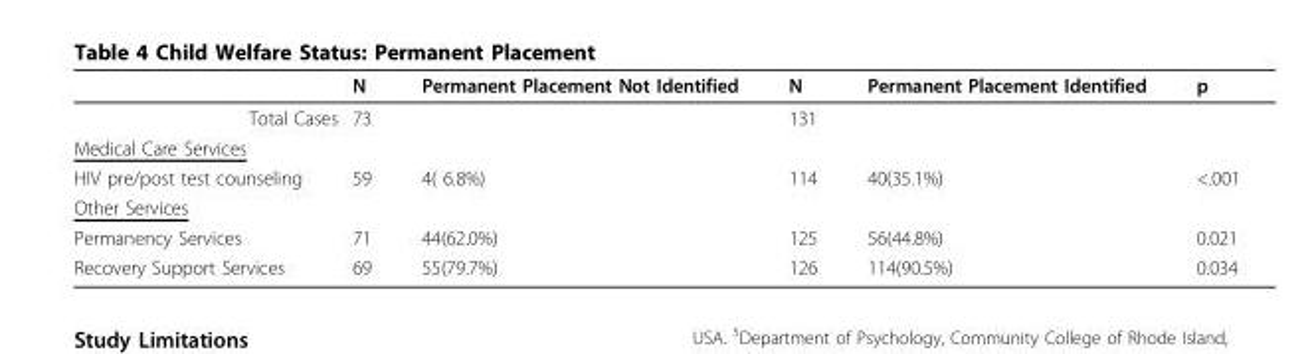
<table><thead><tr><td></td><td>N</td><td>Permanent Placement Not Identified</td><td>N</td><td>Permanent Placement Identified</td><td>p</td></tr></thead><tbody><tr><td>Total Cases</td><td>73</td><td></td><td>131</td><td></td><td></td></tr><tr><td colspan="6">Medical Care Services</td></tr><tr><td>HIV pre/post test counseling</td><td>59</td><td>4( 6.8%)</td><td>114</td><td>40(35.1%)</td><td>&lt;.001</td></tr><tr><td colspan="6">Other Services</td></tr><tr><td>Permanency Services</td><td>71</td><td>44(62.0%)</td><td>125</td><td>56(44.8%)</td><td>0.021</td></tr><tr><td>Recovery Support Services</td><td>69</td><td>55(79.7%)</td><td>126</td><td>114(90.5%)</td><td>0.034</td></tr></tbody></table>